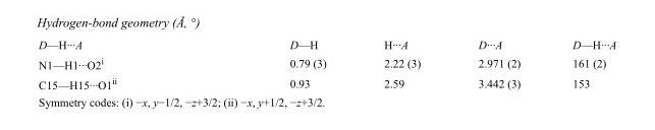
<table><tbody><tr><td>D—H···A</td><td>D—H</td><td>H···A</td><td>D···A</td><td>D—H···A</td></tr><tr><td>N1—H1···O2<sup>i</sup></td><td>0.79 (3)</td><td>2.22 (3)</td><td>2.971 (2)</td><td>161 (2)</td></tr><tr><td>C15—H15···O1<sup>ii</sup></td><td>0.93</td><td>2.59</td><td>3.442 (3)</td><td>153</td></tr></tbody></table>